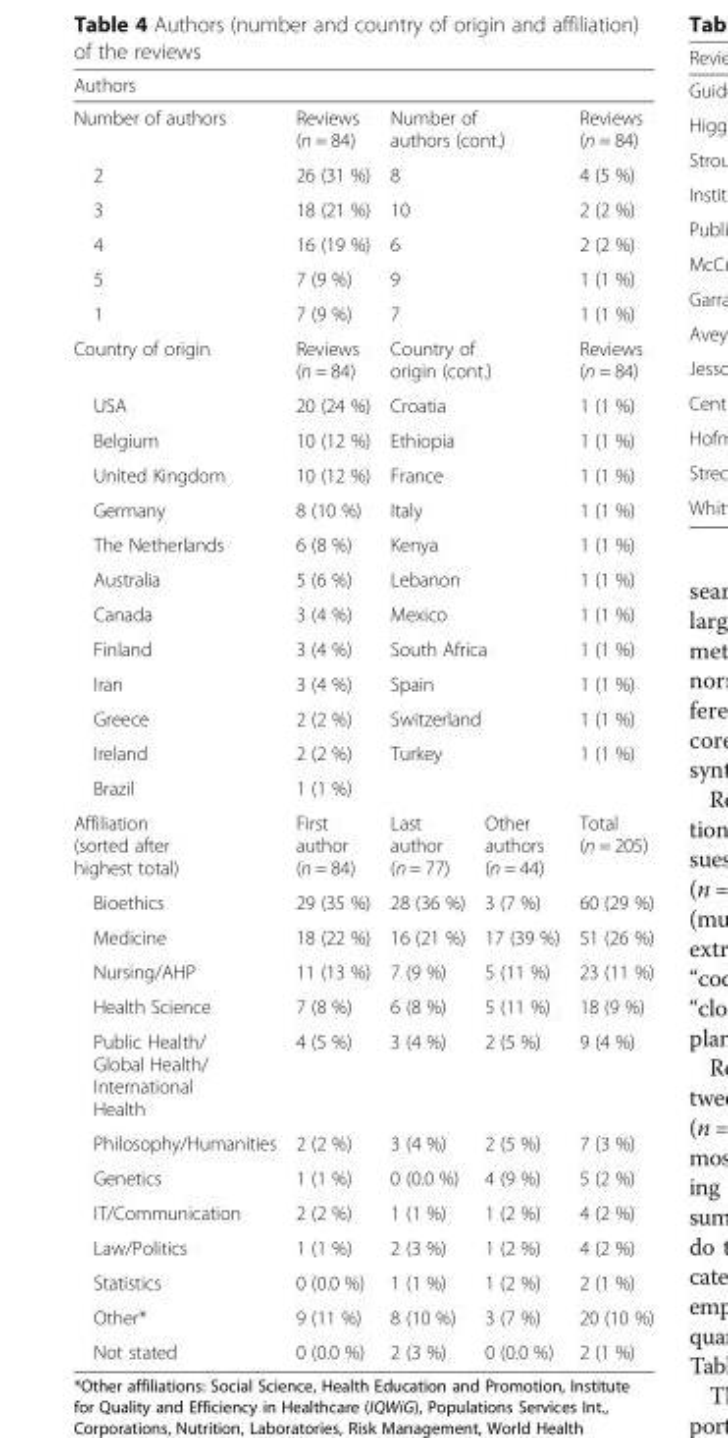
<table><thead><tr><td colspan="5">Authors</td></tr></thead><tbody><tr><td>Number of authors</td><td>Reviews (n = 84)</td><td colspan="2">Number of authors (cont.)</td><td>Reviews (n = 84)</td></tr><tr><td>2</td><td>26 (31 %)</td><td colspan="2">8</td><td>4 (5 %)</td></tr><tr><td>3</td><td>18 (21 %)</td><td colspan="2">10</td><td>2 (2 %)</td></tr><tr><td>4</td><td>16 (19 %)</td><td colspan="2">6</td><td>2 (2 %)</td></tr><tr><td>5</td><td>7 (9 %)</td><td colspan="2">9</td><td>1 (1 %)</td></tr><tr><td>1</td><td>7 (9 %)</td><td colspan="2">7</td><td>1 (1 %)</td></tr><tr><td>Country of origin</td><td>Reviews (n = 84)</td><td colspan="2">Country of origin (cont.)</td><td>Reviews (n = 84)</td></tr><tr><td>USA</td><td>20 (24 %)</td><td colspan="2">Croatia</td><td>1 (1 %)</td></tr><tr><td>Belgium</td><td>10 (12 %)</td><td colspan="2">Ethiopia</td><td>1 (1 %)</td></tr><tr><td>United Kingdom</td><td>10 (12 %)</td><td colspan="2">France</td><td>1 (1 %)</td></tr><tr><td>Germany</td><td>8 (10 %)</td><td colspan="2">Italy</td><td>1 (1 %)</td></tr><tr><td>The Netherlands</td><td>6 (8 %)</td><td colspan="2">Kenya</td><td>1 (1 %)</td></tr><tr><td>Australia</td><td>5 (6 %)</td><td colspan="2">Lebanon</td><td>1 (1 %)</td></tr><tr><td>Canada</td><td>3 (4 %)</td><td colspan="2">Mexico</td><td>1 (1 %)</td></tr><tr><td>Finland</td><td>3 (4 %)</td><td colspan="2">South Africa</td><td>1 (1 %)</td></tr><tr><td>Iran</td><td>3 (4 %)</td><td colspan="2">Spain</td><td>1 (1 %)</td></tr><tr><td>Greece</td><td>2 (2 %)</td><td colspan="2">Switzerland</td><td>1 (1 %)</td></tr><tr><td>Ireland</td><td>2 (2 %)</td><td colspan="2">Turkey</td><td>1 (1 %)</td></tr><tr><td>Brazil</td><td>1 (1 %)</td><td colspan="2"></td><td></td></tr><tr><td>Affiliation (sorted after highest total)</td><td>First author (n = 84)</td><td>Last author (n = 77)</td><td>Other authors (n = 44)</td><td>Total (n = 205)</td></tr><tr><td>Bioethics</td><td>29 (35 %)</td><td>28 (36 %)</td><td>3 (7 %)</td><td>60 (29 %)</td></tr><tr><td>Medicine</td><td>18 (22 %)</td><td>16 (21 %)</td><td>17 (39 %)</td><td>51 (26 %)</td></tr><tr><td>Nursing/AHP</td><td>11 (13 %)</td><td>7 (9 %)</td><td>5 (11 %)</td><td>23 (11 %)</td></tr><tr><td>Health Science</td><td>7 (8 %)</td><td>6 (8 %)</td><td>5 (11 %)</td><td>18 (9 %)</td></tr><tr><td>Public Health/ Global Health/ International Health</td><td>4 (5 %)</td><td>3 (4 %)</td><td>2 (5 %)</td><td>9 (4 %)</td></tr><tr><td>Philosophy/Humanities</td><td>2 (2 %)</td><td>3 (4 %)</td><td>2 (5 %)</td><td>7 (3 %)</td></tr><tr><td>Genetics</td><td>1 (1 %)</td><td>0 (0.0 %)</td><td>4 (9 %)</td><td>5 (2 %)</td></tr><tr><td>IT/Communication</td><td>2 (2 %)</td><td>1 (1 %)</td><td>1 (2 %)</td><td>4 (2 %)</td></tr><tr><td>Law/Politics</td><td>1 (1 %)</td><td>2 (3 %)</td><td>1 (2 %)</td><td>4 (2 %)</td></tr><tr><td>Statistics</td><td>0 (0.0 %)</td><td>1 (1 %)</td><td>1 (2 %)</td><td>2 (1 %)</td></tr><tr><td>Other*</td><td>9 (11 %)</td><td>8 (10 %)</td><td>3 (7 %)</td><td>20 (10 %)</td></tr><tr><td>Not stated</td><td>0 (0.0 %)</td><td>2 (3 %)</td><td>0 (0.0 %)</td><td>2 (1 %)</td></tr></tbody></table>